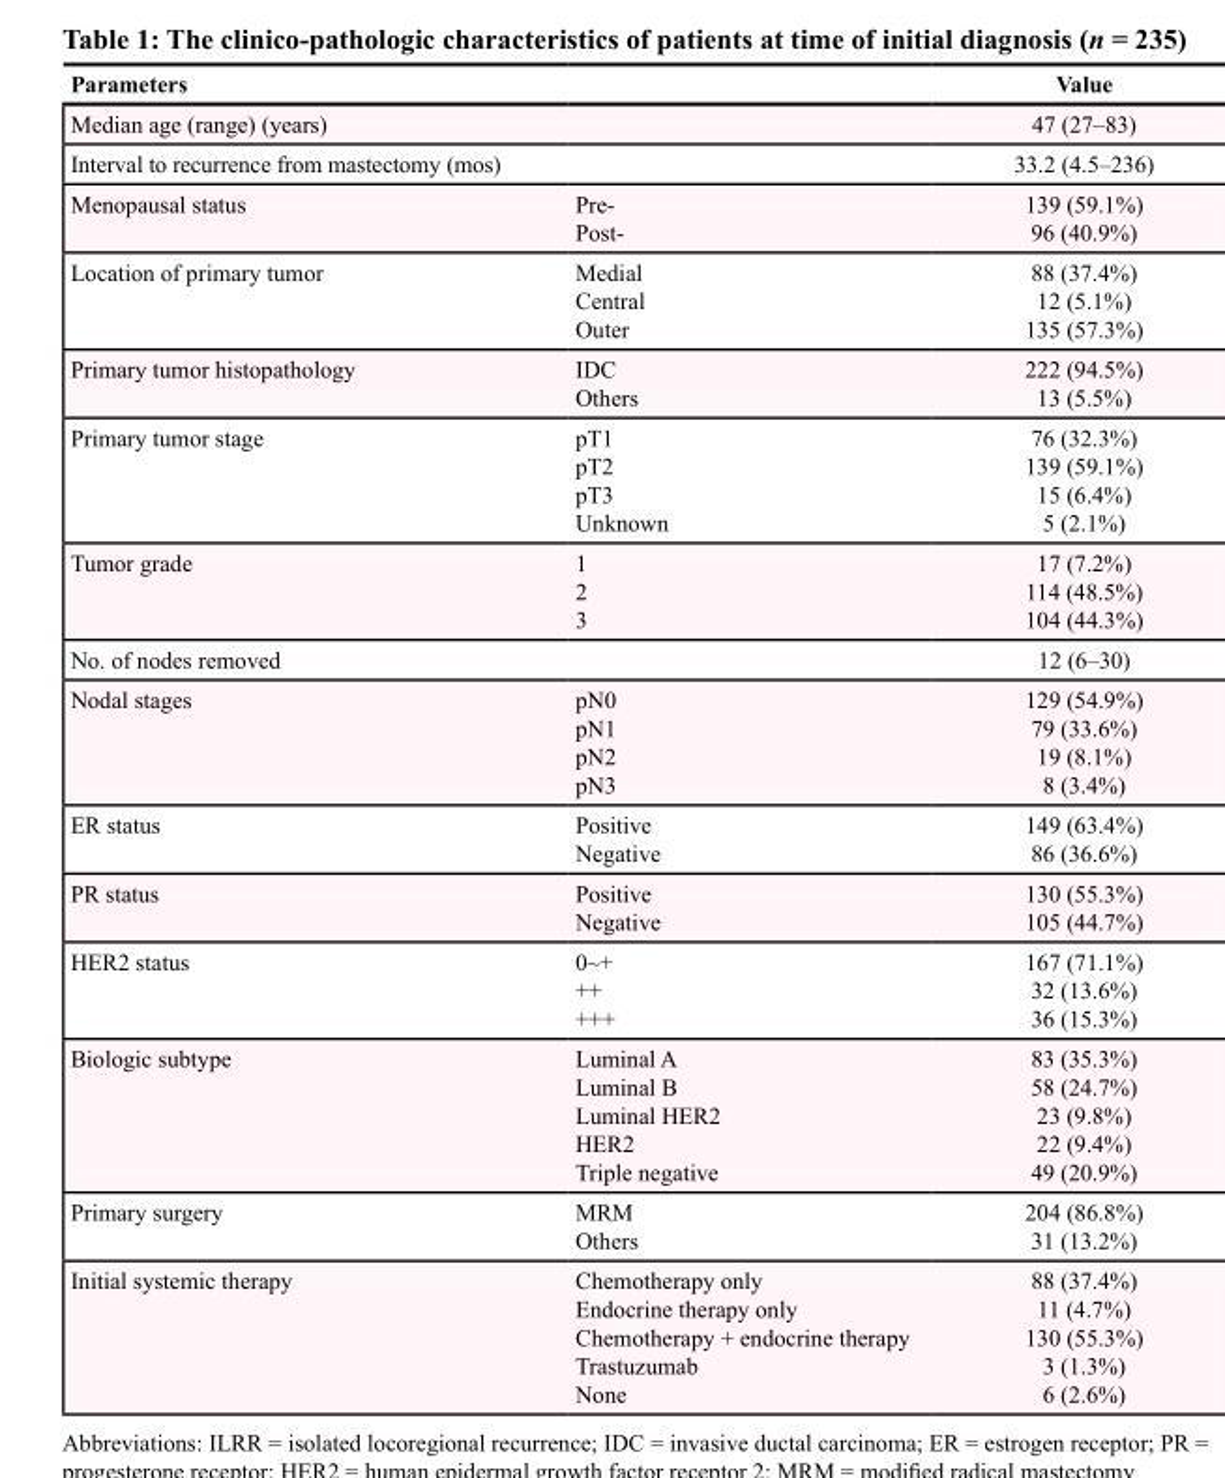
<table><thead><tr><td rowspan="3" colspan="2">Parameters Median age (range) (years) Interval to recurrence from mastectomy (mos)</td><td rowspan="4">Value 47 (27–83) 33.2 (4.5–236) 139 (59.1%) 96 (40.9%)</td></tr><tr></tr><tr></tr><tr><td>Menopausal status</td><td>Pre- Post-</td></tr></thead><tbody><tr><td>Location of primary tumor</td><td>Medial Central Outer</td><td>88 (37.4%) 12 (5.1%) 135 (57.3%)</td></tr><tr><td>Primary tumor histopathology</td><td>IDC Others</td><td>222 (94.5%) 13 (5.5%)</td></tr><tr><td>Primary tumor stage</td><td>pT1 pT2 pT3 Unknown</td><td>76 (32.3%) 139 (59.1%) 15 (6.4%) 5 (2.1%)</td></tr><tr><td>Tumor grade</td><td>1 2 3</td><td>17 (7.2%) 114 (48.5%) 104 (44.3%)</td></tr><tr><td colspan="2">No. of nodes removed</td><td>12 (6–30)</td></tr><tr><td>Nodal stages</td><td>pN0 pN1 pN2 pN3</td><td>129 (54.9%) 79 (33.6%) 19 (8.1%) 8 (3.4%)</td></tr><tr><td>ER status</td><td>Positive Negative</td><td>149 (63.4%) 86 (36.6%)</td></tr><tr><td>PR status</td><td>Positive Negative</td><td>130 (55.3%) 105 (44.7%)</td></tr><tr><td>HER2 status</td><td>0~+ ++ +++</td><td>167 (71.1%) 32 (13.6%) 36 (15.3%)</td></tr><tr><td>Biologic subtype</td><td>Luminal A Luminal B Luminal HER2 HER2 Triple negative</td><td>83 (35.3%) 58 (24.7%) 23 (9.8%) 22 (9.4%) 49 (20.9%)</td></tr><tr><td>Primary surgery</td><td>MRM Others</td><td>204 (86.8%) 31 (13.2%)</td></tr><tr><td>Initial systemic therapy</td><td>Chemotherapy only Endocrine therapy only Chemotherapy + endocrine therapy Trastuzumab None</td><td>88 (37.4%) 11 (4.7%) 130 (55.3%) 3 (1.3%) 6 (2.6%)</td></tr></tbody></table>